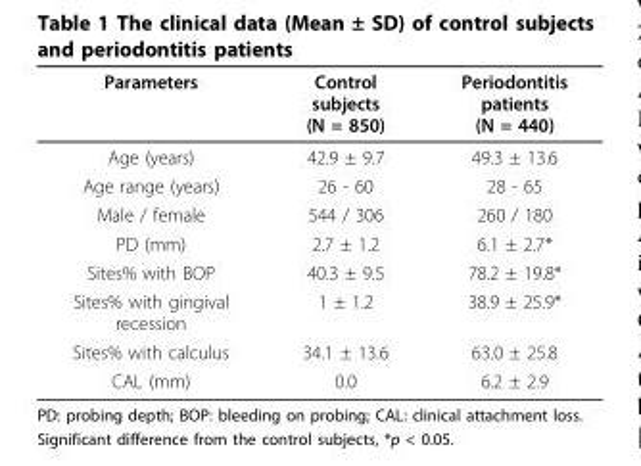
<table><thead><tr><td>Parameters</td><td>Control subjects (N = 850)</td><td>Periodontitis patients (N = 440)</td></tr></thead><tbody><tr><td>Age (years)</td><td>42.9 ± 9.7</td><td>49.3 ± 13.6</td></tr><tr><td>Age range (years)</td><td>26 - 60</td><td>28 - 65</td></tr><tr><td>Male / female</td><td>544 / 306</td><td>260 / 180</td></tr><tr><td>PD (mm)</td><td>2.7 ± 1.2</td><td>6.1 ± 2.7*</td></tr><tr><td>Sites% with BOP</td><td>40.3 ± 9.5</td><td>78.2 ± 19.8*</td></tr><tr><td>Sites% with gingival recession</td><td>1 ± 1.2</td><td>38.9 ± 25.9*</td></tr><tr><td>Sites% with calculus</td><td>34.1 ± 13.6</td><td>63.0 ± 25.8</td></tr><tr><td>CAL (mm)</td><td>0.0</td><td>6.2 ± 2.9</td></tr></tbody></table>